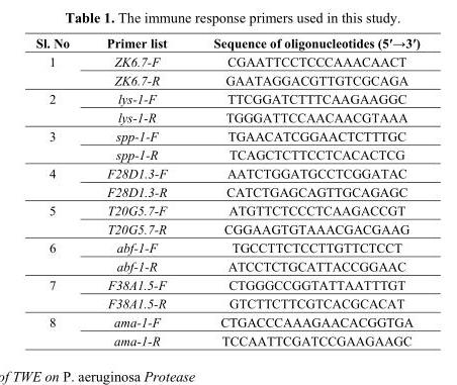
<table><thead><tr><td>Sl. No</td><td>Primer list</td><td>Sequence of oligonucleotides (5′→3′)</td></tr></thead><tbody><tr><td rowspan="2">1</td><td>ZK6.7-F</td><td>CGAATTCCTCCCAAACAACT</td></tr><tr><td>ZK6.7-R</td><td>GAATAGGACGTTGTCGCAGA</td></tr><tr><td rowspan="2">2</td><td>lys-1-F</td><td>TTCGGATCTTTCAAGAAGGC</td></tr><tr><td>lys-1-R</td><td>TGGGATTCCAACAACGTAAA</td></tr><tr><td rowspan="2">3</td><td>spp-1-F</td><td>TGAACATCGGAACTCTTTGC</td></tr><tr><td>spp-1-R</td><td>TCAGCTCTTCCTCACACTCG</td></tr><tr><td rowspan="2">4</td><td>F28D1.3-F</td><td>AATCTGGATGCCTCGGATAC</td></tr><tr><td>F28D1.3-R</td><td>CATCTGAGCAGTTGCAGAGC</td></tr><tr><td rowspan="2">5</td><td>T20G5.7-F</td><td>ATGTTCTCCCTCAAGACCGT</td></tr><tr><td>T20G5.7-R</td><td>CGGAAGTGTAAACGACGAAG</td></tr><tr><td rowspan="2">6</td><td>abf-1-F</td><td>TGCCTTCTCCTTGTTCTCCT</td></tr><tr><td>abf-1-R</td><td>ATCCTCTGCATTACCGGAAC</td></tr><tr><td rowspan="2">7</td><td>F38A1.5-F</td><td>CTGGGCCGGTATTAATTTGT</td></tr><tr><td>F38A1.5-R</td><td>GTCTTCTTCGTCACGCACAT</td></tr><tr><td rowspan="2">8</td><td>ama-1-F</td><td>CTGACCCAAAGAACACGGTGA</td></tr><tr><td>ama-1-R</td><td>TCCAATTCGATCCGAAGAAGC</td></tr></tbody></table>